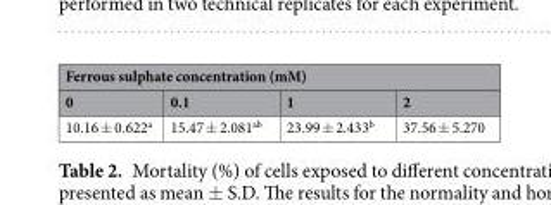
<table><thead><tr><td colspan="4">Ferrous sulphate concentration (mM)</td></tr><tr><td>0</td><td>0.1</td><td>1</td><td>2</td></tr></thead><tbody><tr><td>10.16 ± 0.622<sup>a</sup></td><td>15.47 ± 2.081<sup>ab</sup></td><td>23.99 ± 2.433<sup>b</sup></td><td>37.56 ± 5.270</td></tr></tbody></table>